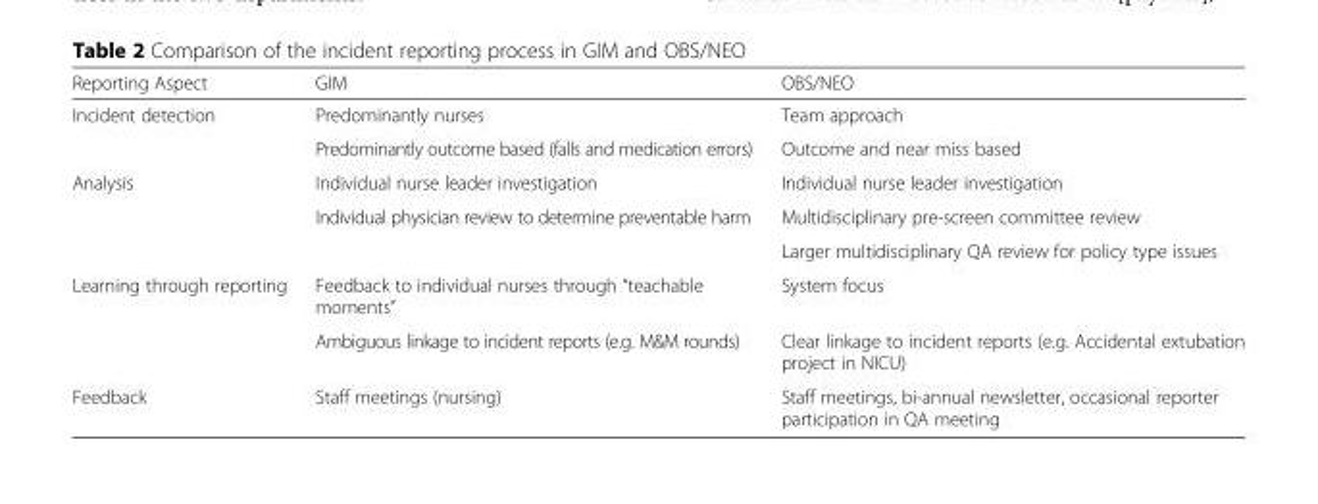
<table><thead><tr><td>Reporting Aspect</td><td>GIM</td><td>OBS/NEO</td></tr></thead><tbody><tr><td rowspan="2">Incident detection</td><td>Predominantly nurses</td><td>Team approach</td></tr><tr><td>Predominantly outcome based (falls and medication errors)</td><td>Outcome and near miss based</td></tr><tr><td rowspan="3">Analysis</td><td>Individual nurse leader investigation</td><td>Individual nurse leader investigation</td></tr><tr><td rowspan="2">Individual physician review to determine preventable harm</td><td>Multidisciplinary pre-screen committee review</td></tr><tr><td>Larger multidisciplinary QA review for policy type issues</td></tr><tr><td rowspan="2">Learning through reporting</td><td>Feedback to individual nurses through “teachable moments”</td><td>System focus</td></tr><tr><td>Ambiguous linkage to incident reports (e.g. M&amp;M rounds)</td><td>Clear linkage to incident reports (e.g. Accidental extubation project in NICU)</td></tr><tr><td>Feedback</td><td>Staff meetings (nursing)</td><td>Staff meetings, bi-annual newsletter, occasional reporter participation in QA meeting</td></tr></tbody></table>